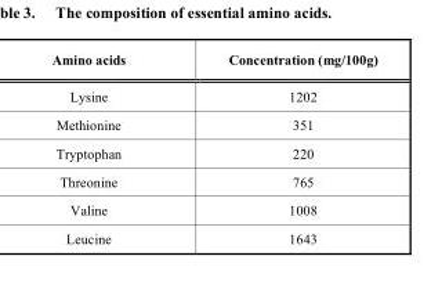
<table><thead><tr><td>Amino acids</td><td>Concentration (mg/100g)</td></tr></thead><tbody><tr><td>Lysine</td><td>1202</td></tr><tr><td>Methionine</td><td>351</td></tr><tr><td>Tryptophan</td><td>220</td></tr><tr><td>Threonine</td><td>765</td></tr><tr><td>Valine</td><td>1008</td></tr><tr><td>Leucine</td><td>1643</td></tr></tbody></table>